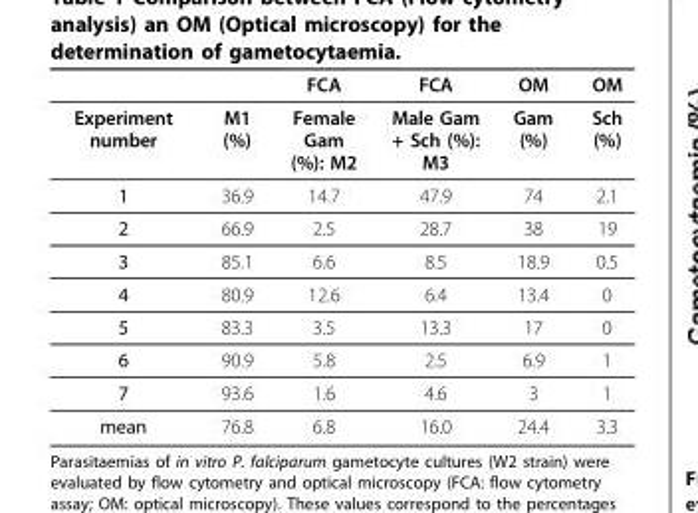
<table><thead><tr><td></td><td></td><td>FCA</td><td>FCA</td><td>OM</td><td>OM</td></tr></thead><tbody><tr><td>Experiment number</td><td>M1 (%)</td><td>Female Gam (%): M2</td><td>Male Gam + Sch (%): M3</td><td>Gam (%)</td><td>Sch (%)</td></tr><tr><td>1</td><td>36.9</td><td>14.7</td><td>47.9</td><td>74</td><td>2.1</td></tr><tr><td>2</td><td>66.9</td><td>2.5</td><td>28.7</td><td>38</td><td>19</td></tr><tr><td>3</td><td>85.1</td><td>6.6</td><td>8.5</td><td>18.9</td><td>0.5</td></tr><tr><td>4</td><td>80.9</td><td>12.6</td><td>6.4</td><td>13.4</td><td>0</td></tr><tr><td>5</td><td>83.3</td><td>3.5</td><td>13.3</td><td>17</td><td>0</td></tr><tr><td>6</td><td>90.9</td><td>5.8</td><td>2.5</td><td>6.9</td><td>1</td></tr><tr><td>7</td><td>93.6</td><td>1.6</td><td>4.6</td><td>3</td><td>1</td></tr><tr><td>mean</td><td>76.8</td><td>6.8</td><td>16.0</td><td>24.4</td><td>3.3</td></tr></tbody></table>